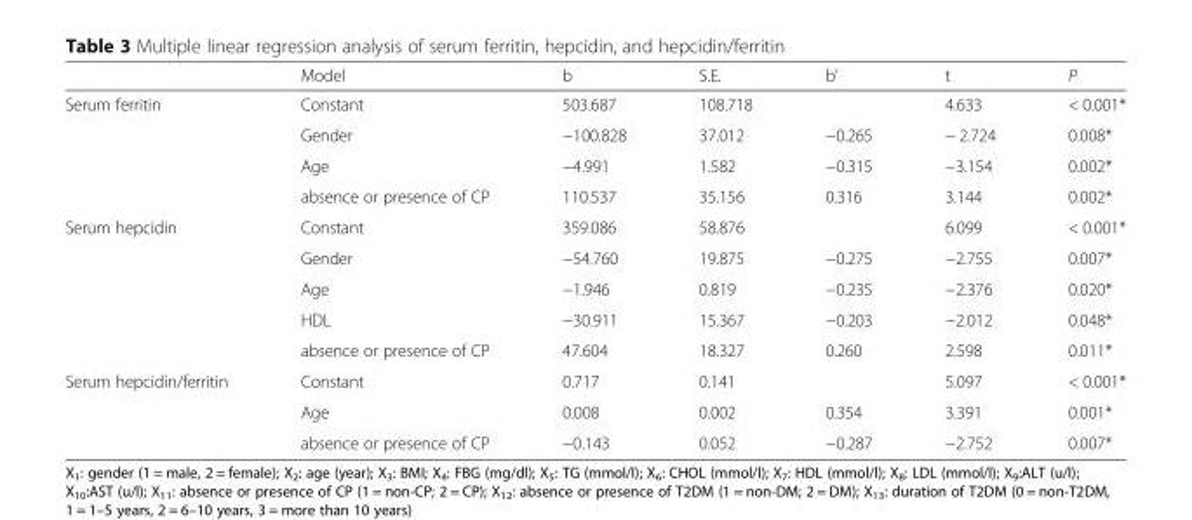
<table><thead><tr><td></td><td>Model</td><td>b</td><td>S.E.</td><td>b’</td><td>t</td><td>P</td></tr></thead><tbody><tr><td rowspan="4">Serum ferritin</td><td>Constant</td><td>503.687</td><td>108.718</td><td></td><td>4.633</td><td>&lt; 0.001*</td></tr><tr><td>Gender</td><td>−100.828</td><td>37.012</td><td>−0.265</td><td>− 2.724</td><td>0.008*</td></tr><tr><td>Age</td><td>−4.991</td><td>1.582</td><td>−0.315</td><td>−3.154</td><td>0.002*</td></tr><tr><td>absence or presence of CP</td><td>110.537</td><td>35.156</td><td>0.316</td><td>3.144</td><td>0.002*</td></tr><tr><td rowspan="5">Serum hepcidin</td><td>Constant</td><td>359.086</td><td>58.876</td><td></td><td>6.099</td><td>&lt; 0.001*</td></tr><tr><td>Gender</td><td>−54.760</td><td>19.875</td><td>−0.275</td><td>−2.755</td><td>0.007*</td></tr><tr><td>Age</td><td>−1.946</td><td>0.819</td><td>−0.235</td><td>−2.376</td><td>0.020*</td></tr><tr><td>HDL</td><td>−30.911</td><td>15.367</td><td>−0.203</td><td>−2.012</td><td>0.048*</td></tr><tr><td>absence or presence of CP</td><td>47.604</td><td>18.327</td><td>0.260</td><td>2.598</td><td>0.011*</td></tr><tr><td rowspan="3">Serum hepcidin/ferritin</td><td>Constant</td><td>0.717</td><td>0.141</td><td></td><td>5.097</td><td>&lt; 0.001*</td></tr><tr><td>Age</td><td>0.008</td><td>0.002</td><td>0.354</td><td>3.391</td><td>0.001*</td></tr><tr><td>absence or presence of CP</td><td>−0.143</td><td>0.052</td><td>−0.287</td><td>−2.752</td><td>0.007*</td></tr></tbody></table>